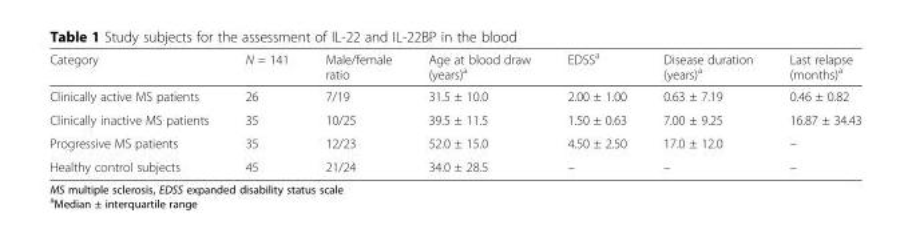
<table><thead><tr><td>Category</td><td>N = 141</td><td>Male/female ratio</td><td>Age at blood draw (years)<sup>a</sup></td><td>EDSS<sup>a</sup></td><td>Disease duration (years)<sup>a</sup></td><td>Last relapse (months)<sup>a</sup></td></tr></thead><tbody><tr><td>Clinically active MS patients</td><td>26</td><td>7/19</td><td>31.5 ± 10.0</td><td>2.00 ± 1.00</td><td>0.63 ± 7.19</td><td>0.46 ± 0.82</td></tr><tr><td>Clinically inactive MS patients</td><td>35</td><td>10/25</td><td>39.5 ± 11.5</td><td>1.50 ± 0.63</td><td>7.00 ± 9.25</td><td>16.87 ± 34.43</td></tr><tr><td>Progressive MS patients</td><td>35</td><td>12/23</td><td>52.0 ± 15.0</td><td>4.50 ± 2.50</td><td>17.0 ± 12.0</td><td>–</td></tr><tr><td>Healthy control subjects</td><td>45</td><td>21/24</td><td>34.0 ± 28.5</td><td>–</td><td>–</td><td>–</td></tr></tbody></table>